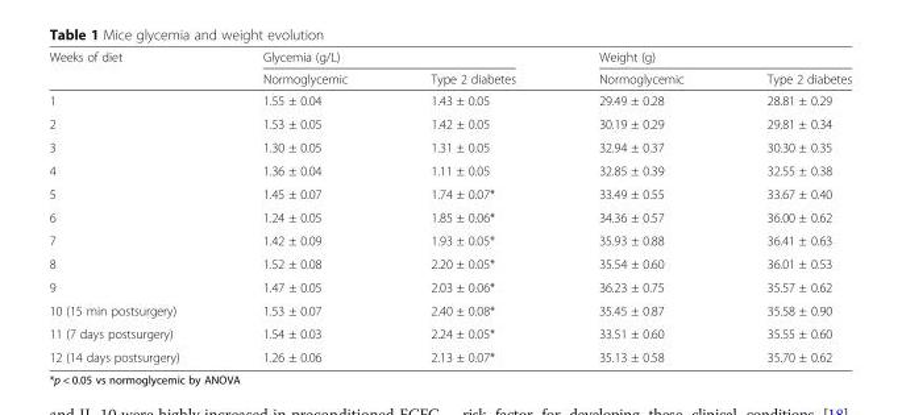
<table><thead><tr><td rowspan="2">Weeks of diet</td><td colspan="2">Glycemia (g/L)</td><td colspan="2">Weight (g)</td></tr><tr><td>Normoglycemic</td><td>Type 2 diabetes</td><td>Normoglycemic</td><td>Type 2 diabetes</td></tr></thead><tbody><tr><td>1</td><td>1.55 ± 0.04</td><td>1.43 ± 0.05</td><td>29.49 ± 0.28</td><td>28.81 ± 0.29</td></tr><tr><td>2</td><td>1.53 ± 0.05</td><td>1.42 ± 0.05</td><td>30.19 ± 0.29</td><td>29.81 ± 0.34</td></tr><tr><td>3</td><td>1.30 ± 0.05</td><td>1.31 ± 0.05</td><td>32.94 ± 0.37</td><td>30.30 ± 0.35</td></tr><tr><td>4</td><td>1.36 ± 0.04</td><td>1.11 ± 0.05</td><td>32.85 ± 0.39</td><td>32.55 ± 0.38</td></tr><tr><td>5</td><td>1.45 ± 0.07</td><td>1.74 ± 0.07*</td><td>33.49 ± 0.55</td><td>33.67 ± 0.40</td></tr><tr><td>6</td><td>1.24 ± 0.05</td><td>1.85 ± 0.06*</td><td>34.36 ± 0.57</td><td>36.00 ± 0.62</td></tr><tr><td>7</td><td>1.42 ± 0.09</td><td>1.93 ± 0.05*</td><td>35.93 ± 0.88</td><td>36.41 ± 0.63</td></tr><tr><td>8</td><td>1.52 ± 0.08</td><td>2.20 ± 0.05*</td><td>35.54 ± 0.60</td><td>36.01 ± 0.53</td></tr><tr><td>9</td><td>1.47 ± 0.05</td><td>2.03 ± 0.06*</td><td>36.23 ± 0.75</td><td>35.57 ± 0.62</td></tr><tr><td>10 (15 min postsurgery)</td><td>1.53 ± 0.07</td><td>2.40 ± 0.08*</td><td>35.45 ± 0.87</td><td>35.58 ± 0.90</td></tr><tr><td>11 (7 days postsurgery)</td><td>1.54 ± 0.03</td><td>2.24 ± 0.05*</td><td>33.51 ± 0.60</td><td>35.55 ± 0.60</td></tr><tr><td>12 (14 days postsurgery)</td><td>1.26 ± 0.06</td><td>2.13 ± 0.07*</td><td>35.13 ± 0.58</td><td>35.70 ± 0.62</td></tr></tbody></table>